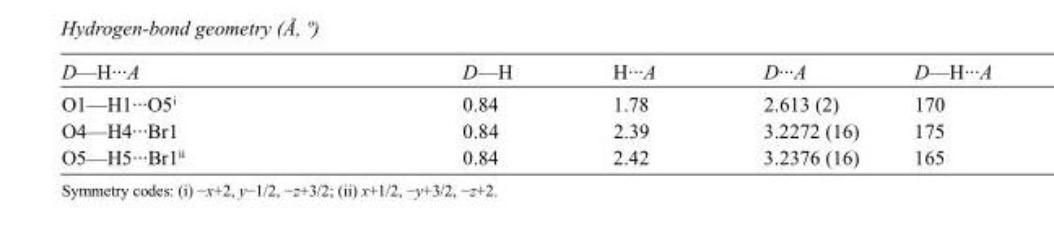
<table><tbody><tr><td>D—H···A</td><td>D—H</td><td>H···A</td><td>D···A</td><td>D—H···A</td></tr><tr><td>O1—H1···O5<sup>i</sup></td><td>0.84</td><td>1.78</td><td>2.613 (2)</td><td>170</td></tr><tr><td>O4—H4···Br1</td><td>0.84</td><td>2.39</td><td>3.2272 (16)</td><td>175</td></tr><tr><td>O5—H5···Br1<sup>ii</sup></td><td>0.84</td><td>2.42</td><td>3.2376 (16)</td><td>165</td></tr></tbody></table>